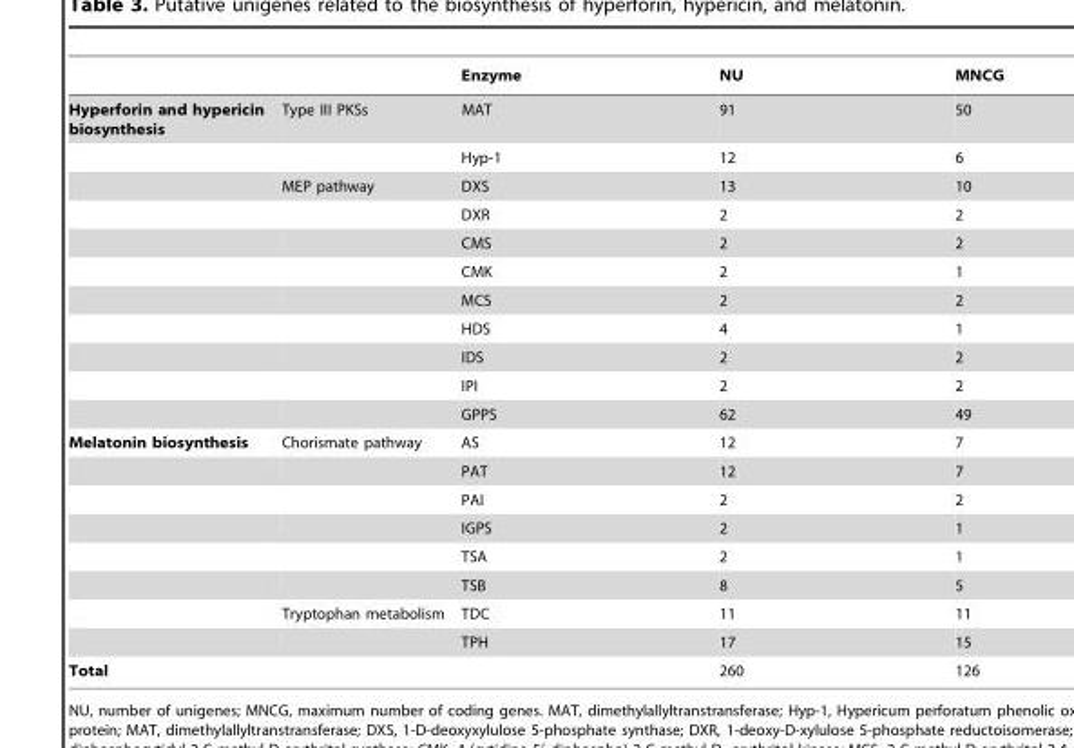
<table><thead><tr><td></td><td></td><td>Enzyme</td><td>NU</td><td>MNCG</td></tr></thead><tbody><tr><td rowspan="11">Hyperforin and hypericin biosynthesis</td><td>Type III PKSs</td><td>MAT</td><td>91</td><td>50</td></tr><tr><td></td><td>Hyp-1</td><td>12</td><td>6</td></tr><tr><td>MEP pathway</td><td>DXS</td><td>13</td><td>10</td></tr><tr><td></td><td>DXR</td><td>2</td><td>2</td></tr><tr><td></td><td>CMS</td><td>2</td><td>2</td></tr><tr><td></td><td>CMK</td><td>2</td><td>1</td></tr><tr><td></td><td>MCS</td><td>2</td><td>2</td></tr><tr><td></td><td>HDS</td><td>4</td><td>1</td></tr><tr><td></td><td>IDS</td><td>2</td><td>2</td></tr><tr><td></td><td>IPI</td><td>2</td><td>2</td></tr><tr><td></td><td>GPPS</td><td>62</td><td>49</td></tr><tr><td rowspan="8">Melatonin biosynthesis</td><td>Chorismate pathway</td><td>AS</td><td>12</td><td>7</td></tr><tr><td></td><td>PAT</td><td>12</td><td>7</td></tr><tr><td></td><td>PAI</td><td>2</td><td>2</td></tr><tr><td></td><td>IGPS</td><td>2</td><td>1</td></tr><tr><td></td><td>TSA</td><td>2</td><td>1</td></tr><tr><td></td><td>TSB</td><td>8</td><td>5</td></tr><tr><td>Tryptophan metabolism</td><td>TDC</td><td>11</td><td>11</td></tr><tr><td></td><td>TPH</td><td>17</td><td>15</td></tr><tr><td colspan="2">Total</td><td></td><td>260</td><td>126</td></tr></tbody></table>